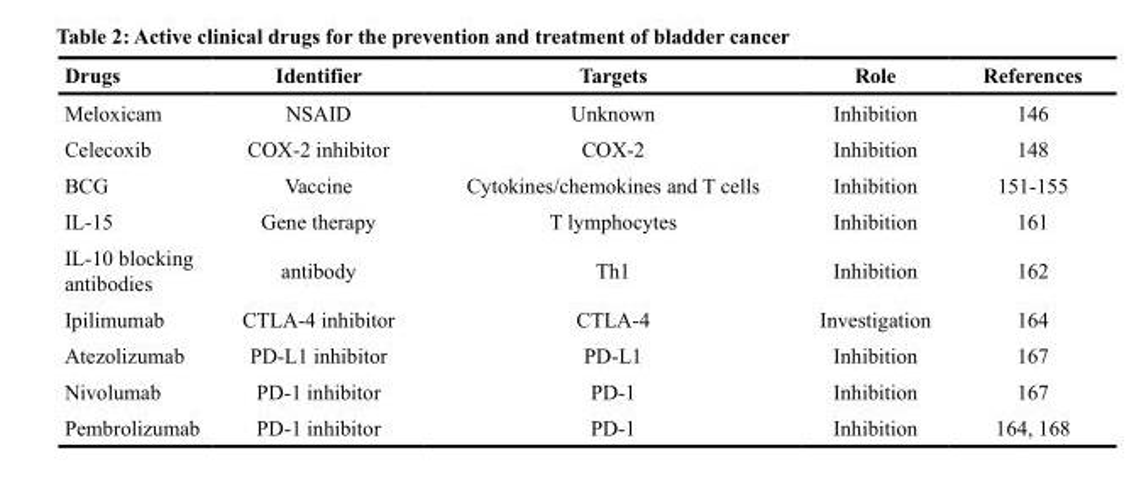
<table><thead><tr><td>Drugs</td><td>Identifier</td><td>Targets</td><td>Role</td><td>References</td></tr></thead><tbody><tr><td>Meloxicam</td><td>NSAID</td><td>Unknown</td><td>Inhibition</td><td>146</td></tr><tr><td>Celecoxib</td><td>COX-2 inhibitor</td><td>COX-2</td><td>Inhibition</td><td>148</td></tr><tr><td>BCG</td><td>Vaccine</td><td>Cytokines/chemokines and T cells</td><td>Inhibition</td><td>151-155</td></tr><tr><td>IL-15</td><td>Gene therapy</td><td>T lymphocytes</td><td>Inhibition</td><td>161</td></tr><tr><td>IL-10 blocking antibodies</td><td>antibody</td><td>Th1</td><td>Inhibition</td><td>162</td></tr><tr><td>Ipilimumab</td><td>CTLA-4 inhibitor</td><td>CTLA-4</td><td>Investigation</td><td>164</td></tr><tr><td>Atezolizumab</td><td>PD-L1 inhibitor</td><td>PD-L1</td><td>Inhibition</td><td>167</td></tr><tr><td>Nivolumab</td><td>PD-1 inhibitor</td><td>PD-1</td><td>Inhibition</td><td>167</td></tr><tr><td>Pembrolizumab</td><td>PD-1 inhibitor</td><td>PD-1</td><td>Inhibition</td><td>164, 168</td></tr></tbody></table>